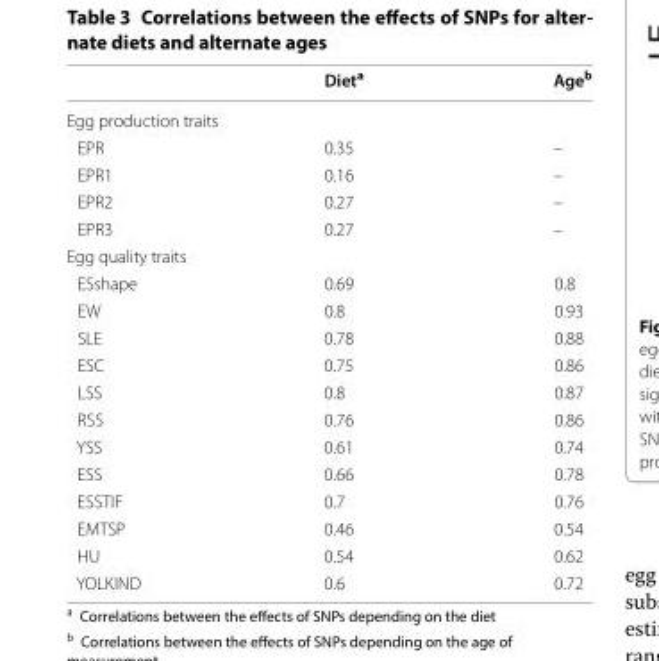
<table><thead><tr><td></td><td>Diet<sup>a</sup></td><td>Age<sup>b</sup></td></tr></thead><tbody><tr><td colspan="3">Egg production traits</td></tr><tr><td>EPR</td><td>0.35</td><td>–</td></tr><tr><td>EPR1</td><td>0.16</td><td>–</td></tr><tr><td>EPR2</td><td>0.27</td><td>–</td></tr><tr><td>EPR3</td><td>0.27</td><td>–</td></tr><tr><td colspan="3">Egg quality traits</td></tr><tr><td>ESshape</td><td>0.69</td><td>0.8</td></tr><tr><td>EW</td><td>0.8</td><td>0.93</td></tr><tr><td>SLE</td><td>0.78</td><td>0.88</td></tr><tr><td>ESC</td><td>0.75</td><td>0.86</td></tr><tr><td>LSS</td><td>0.8</td><td>0.87</td></tr><tr><td>RSS</td><td>0.76</td><td>0.86</td></tr><tr><td>YSS</td><td>0.61</td><td>0.74</td></tr><tr><td>ESS</td><td>0.66</td><td>0.78</td></tr><tr><td>ESSTIF</td><td>0.7</td><td>0.76</td></tr><tr><td>EMTSP</td><td>0.46</td><td>0.54</td></tr><tr><td>HU</td><td>0.54</td><td>0.62</td></tr><tr><td>YOLKIND</td><td>0.6</td><td>0.72</td></tr></tbody></table>